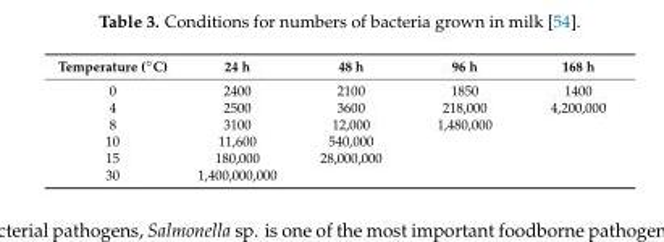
<table><thead><tr><td>Temperature (◦C)</td><td>24 h</td><td>48 h</td><td>96 h</td><td>168 h</td></tr></thead><tbody><tr><td>0</td><td>2400</td><td>2100</td><td>1850</td><td>1400</td></tr><tr><td>4</td><td>2500</td><td>3600</td><td>218,000</td><td>4,200,000</td></tr><tr><td>8</td><td>3100</td><td>12,000</td><td>1,480,000</td><td></td></tr><tr><td>10</td><td>11,600</td><td>540,000</td><td></td><td></td></tr><tr><td>15</td><td>180,000</td><td>28,000,000</td><td></td><td></td></tr><tr><td>30</td><td>1,400,000,000</td><td></td><td></td><td></td></tr></tbody></table>